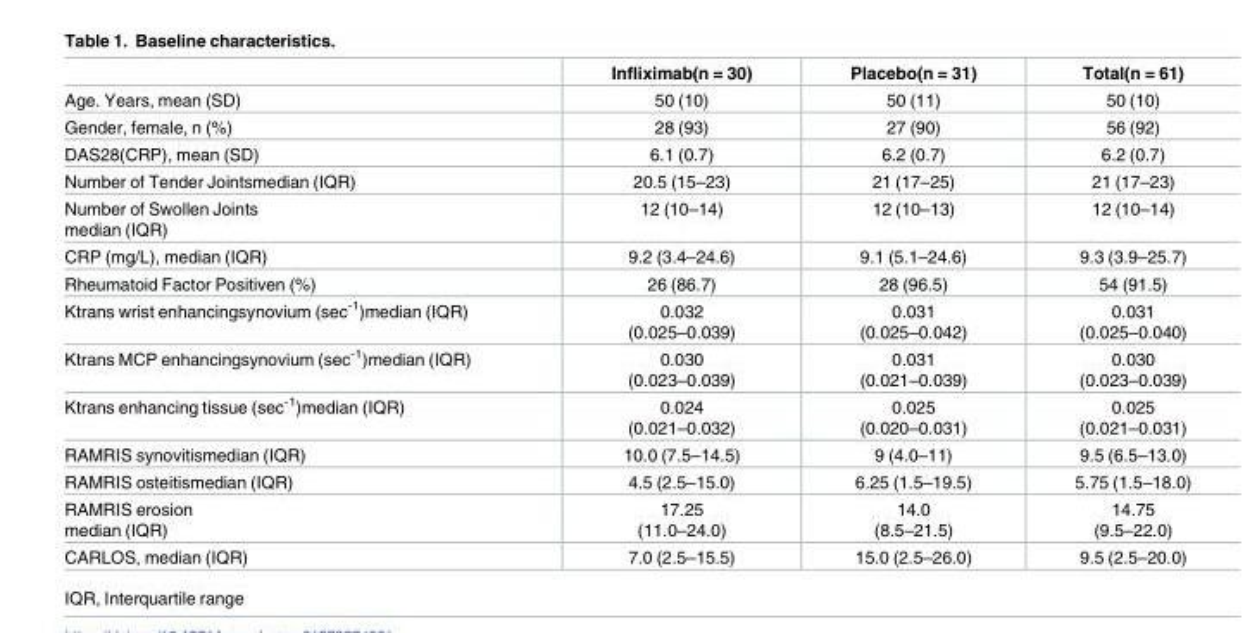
<table><thead><tr><td></td><td>Infliximab(n = 30)</td><td>Placebo(n = 31)</td><td>Total(n = 61)</td></tr></thead><tbody><tr><td>Age. Years, mean (SD)</td><td>50 (10)</td><td>50 (11)</td><td>50 (10)</td></tr><tr><td>Gender, female, n (%)</td><td>28 (93)</td><td>27 (90)</td><td>56 (92)</td></tr><tr><td>DAS28(CRP), mean (SD)</td><td>6.1 (0.7)</td><td>6.2 (0.7)</td><td>6.2 (0.7)</td></tr><tr><td>Number of Tender Jointsmedian (IQR)</td><td>20.5 (15–23)</td><td>21 (17–25)</td><td>21 (17–23)</td></tr><tr><td>Number of Swollen Joints median (IQR)</td><td>12 (10–14)</td><td>12 (10–13)</td><td>12 (10–14)</td></tr><tr><td>CRP (mg/L), median (IQR)</td><td>9.2 (3.4–24.6)</td><td>9.1 (5.1–24.6)</td><td>9.3 (3.9–25.7)</td></tr><tr><td>Rheumatoid Factor Positiven (%)</td><td>26 (86.7)</td><td>28 (96.5)</td><td>54 (91.5)</td></tr><tr><td>Ktrans wrist enhancingsynovium (sec<sup>-1</sup>)median (IQR)</td><td>0.032 (0.025–0.039)</td><td>0.031 (0.025–0.042)</td><td>0.031 (0.025–0.040)</td></tr><tr><td>Ktrans MCP enhancingsynovium (sec<sup>-1</sup>)median (IQR)</td><td>0.030 (0.023–0.039)</td><td>0.031 (0.021–0.039)</td><td>0.030 (0.023–0.039)</td></tr><tr><td>Ktrans enhancing tissue (sec<sup>-1</sup>)median (IQR)</td><td>0.024 (0.021–0.032)</td><td>0.025 (0.020–0.031)</td><td>0.025 (0.021–0.031)</td></tr><tr><td>RAMRIS synovitismedian (IQR)</td><td>10.0 (7.5–14.5)</td><td>9 (4.0–11)</td><td>9.5 (6.5–13.0)</td></tr><tr><td>RAMRIS osteitismedian (IQR)</td><td>4.5 (2.5–15.0)</td><td>6.25 (1.5–19.5)</td><td>5.75 (1.5–18.0)</td></tr><tr><td>RAMRIS erosion median (IQR)</td><td>17.25 (11.0–24.0)</td><td>14.0 (8.5–21.5)</td><td>14.75 (9.5–22.0)</td></tr><tr><td>CARLOS, median (IQR)</td><td>7.0 (2.5–15.5)</td><td>15.0 (2.5–26.0)</td><td>9.5 (2.5–20.0)</td></tr></tbody></table>